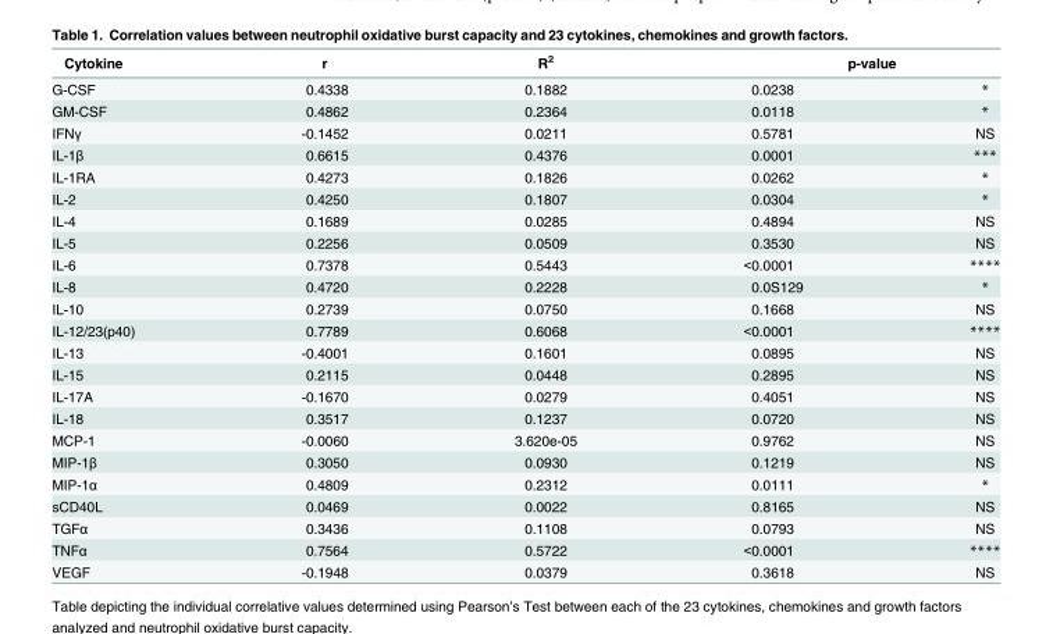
<table><thead><tr><td rowspan="2">Cytokine G-CSF</td><td rowspan="2">r 0.4338</td><td rowspan="2">R<sup>2</sup> 0.1882</td><td colspan="2">p-value</td></tr><tr><td>0.0238</td><td>*</td></tr></thead><tbody><tr><td>GM-CSF</td><td>0.4862</td><td>0.2364</td><td>0.0118</td><td>*</td></tr><tr><td>IFNγ</td><td>-0.1452</td><td>0.0211</td><td>0.5781</td><td>NS</td></tr><tr><td>IL-1β</td><td>0.6615</td><td>0.4376</td><td>0.0001</td><td>***</td></tr><tr><td>IL-1RA</td><td>0.4273</td><td>0.1826</td><td>0.0262</td><td>*</td></tr><tr><td>IL-2</td><td>0.4250</td><td>0.1807</td><td>0.0304</td><td>*</td></tr><tr><td>IL-4</td><td>0.1689</td><td>0.0285</td><td>0.4894</td><td>NS</td></tr><tr><td>IL-5</td><td>0.2256</td><td>0.0509</td><td>0.3530</td><td>NS</td></tr><tr><td>IL-6</td><td>0.7378</td><td>0.5443</td><td>&lt;0.0001</td><td>****</td></tr><tr><td>IL-8</td><td>0.4720</td><td>0.2228</td><td>0.0S129</td><td>*</td></tr><tr><td>IL-10</td><td>0.2739</td><td>0.0750</td><td>0.1668</td><td>NS</td></tr><tr><td>IL-12/23(p40)</td><td>0.7789</td><td>0.6068</td><td>&lt;0.0001</td><td>****</td></tr><tr><td>IL-13</td><td>-0.4001</td><td>0.1601</td><td>0.0895</td><td>NS</td></tr><tr><td>IL-15</td><td>0.2115</td><td>0.0448</td><td>0.2895</td><td>NS</td></tr><tr><td>IL-17A</td><td>-0.1670</td><td>0.0279</td><td>0.4051</td><td>NS</td></tr><tr><td>IL-18</td><td>0.3517</td><td>0.1237</td><td>0.0720</td><td>NS</td></tr><tr><td>MCP-1</td><td>-0.0060</td><td>3.620e-05</td><td>0.9762</td><td>NS</td></tr><tr><td>MIP-1β</td><td>0.3050</td><td>0.0930</td><td>0.1219</td><td>NS</td></tr><tr><td>MIP-1α</td><td>0.4809</td><td>0.2312</td><td>0.0111</td><td>*</td></tr><tr><td>sCD40L</td><td>0.0469</td><td>0.0022</td><td>0.8165</td><td>NS</td></tr><tr><td>TGFα</td><td>0.3436</td><td>0.1108</td><td>0.0793</td><td>NS</td></tr><tr><td>TNFα</td><td>0.7564</td><td>0.5722</td><td>&lt;0.0001</td><td>****</td></tr><tr><td>VEGF</td><td>-0.1948</td><td>0.0379</td><td>0.3618</td><td>NS</td></tr></tbody></table>